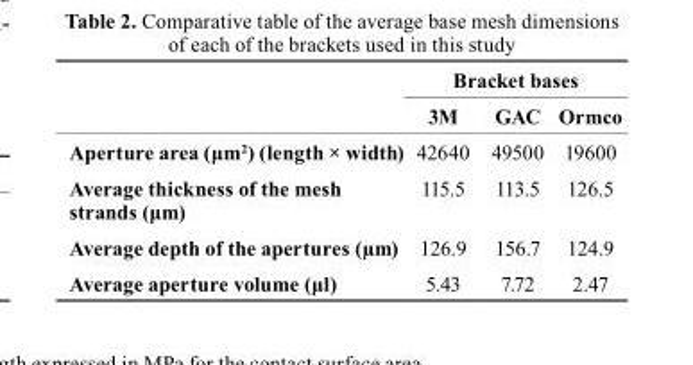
<table><thead><tr><td rowspan="2"></td><td colspan="3">bracket bases</td></tr><tr><td>3M</td><td>GAc</td><td>Ormco</td></tr></thead><tbody><tr><td>Aperture area (μm<sup>2</sup>) (length × width)</td><td>42640</td><td>49500</td><td>19600</td></tr><tr><td>Average thickness of the mesh strands (μm)</td><td>115.5</td><td>113.5</td><td>126.5</td></tr><tr><td>Average depth of the apertures (µm)</td><td>126.9</td><td>156.7</td><td>124.9</td></tr><tr><td>Average aperture volume (μl)</td><td>5.43</td><td>7.72</td><td>2.47</td></tr></tbody></table>